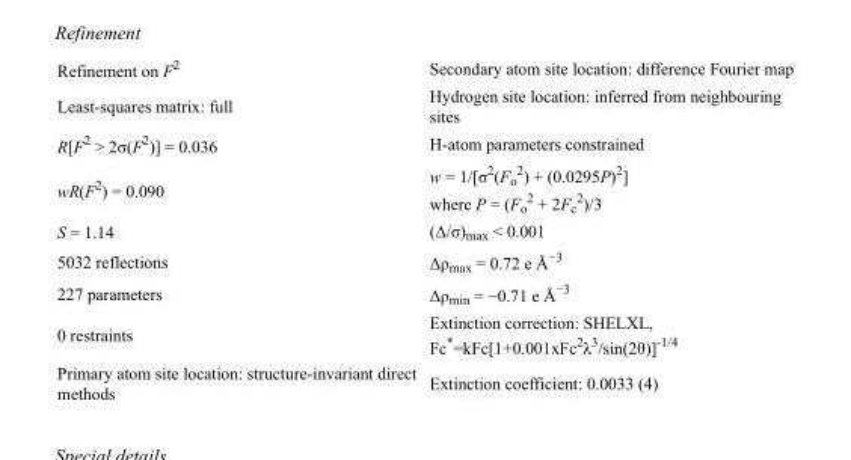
<table><tbody><tr><td>Refinement on F<sup>2</sup></td><td>Secondary atom site location: difference Fourier map</td></tr><tr><td>Least-squares matrix: full</td><td>Hydrogen site location: inferred from neighbouring sites</td></tr><tr><td>R[F<sup>2</sup> &gt; 2σ(F<sup>2</sup>)] = 0.036</td><td>H-atom parameters constrained</td></tr><tr><td>wR(F<sup>2</sup>) = 0.090</td><td>w = 1/[σ<sup>2</sup>(F<sub>o</sub> <sup>2</sup>) + (0.0295P)<sup>2</sup>] where P = (F<sub>o</sub> <sup>2</sup> + 2F<sub>c</sub> <sup>2</sup>)/3</td></tr><tr><td>S = 1.14</td><td>(Δ/σ)<sub>max</sub> &lt; 0.001</td></tr><tr><td>5032 reflections</td><td>Δρ<sub>max</sub> = 0.72 e Å<sup>−3</sup></td></tr><tr><td>227 parameters</td><td>Δρ<sub>min</sub> = −0.71 e Å<sup>−3</sup></td></tr><tr><td>0 restraints</td><td>Extinction correction: SHELXL, Fc*=kFc[1+0.001xFc<sup>2</sup>λ<sup>3</sup>/sin(2θ)]<sup>-1/4</sup></td></tr><tr><td>Primary atom site location: structure-invariant direct methods</td><td>Extinction coefficient: 0.0033 (4)</td></tr></tbody></table>